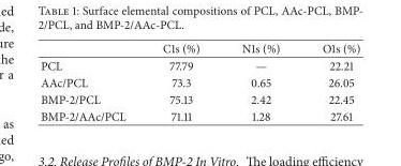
<table><thead><tr><td></td><td>C1s (%)</td><td>N1s (%)</td><td>O1s (%)</td></tr></thead><tbody><tr><td>PCL</td><td>77.79</td><td>—</td><td>22.21</td></tr><tr><td>AAc/PCL</td><td>73.3</td><td>0.65</td><td>26.05</td></tr><tr><td>BMP-2/PCL</td><td>75.13</td><td>2.42</td><td>22.45</td></tr><tr><td>BMP-2/AAc/PCL</td><td>71.11</td><td>1.28</td><td>27.61</td></tr></tbody></table>